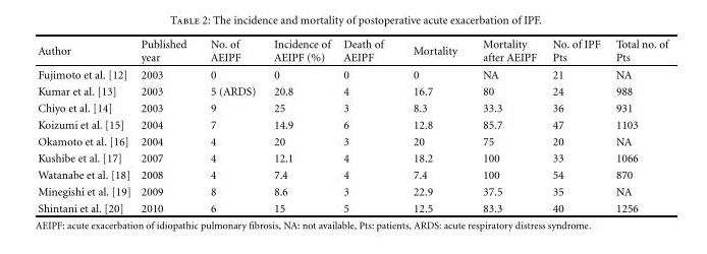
<table><thead><tr><td>Author</td><td>Published year</td><td>No. of AEIPF</td><td>Incidence of AEIPF (%)</td><td>Death of AEIPF</td><td>Mortality</td><td>Mortality after AEIPF</td><td>No. of IPF Pts</td><td>Total no. of Pts</td></tr></thead><tbody><tr><td>Fujimoto et al. [12]</td><td>2003</td><td>0</td><td>0</td><td>0</td><td>0</td><td>NA</td><td>21</td><td>NA</td></tr><tr><td>Kumar et al. [13]</td><td>2003</td><td>5 (ARDS)</td><td>20.8</td><td>4</td><td>16.7</td><td>80</td><td>24</td><td>988</td></tr><tr><td>Chiyo et al. [14]</td><td>2003</td><td>9</td><td>25</td><td>3</td><td>8.3</td><td>33.3</td><td>36</td><td>931</td></tr><tr><td>Koizumi et al. [15]</td><td>2004</td><td>7</td><td>14.9</td><td>6</td><td>12.8</td><td>85.7</td><td>47</td><td>1103</td></tr><tr><td>Okamoto et al. [16]</td><td>2004</td><td>4</td><td>20</td><td>3</td><td>20</td><td>75</td><td>20</td><td>NA</td></tr><tr><td>Kushibe et al. [17]</td><td>2007</td><td>4</td><td>12.1</td><td>4</td><td>18.2</td><td>100</td><td>33</td><td>1066</td></tr><tr><td>Watanabe et al. [18]</td><td>2008</td><td>4</td><td>7.4</td><td>4</td><td>7.4</td><td>100</td><td>54</td><td>870</td></tr><tr><td>Minegishi et al. [19]</td><td>2009</td><td>8</td><td>8.6</td><td>3</td><td>22.9</td><td>37.5</td><td>35</td><td>NA</td></tr><tr><td>Shintani et al. [20]</td><td>2010</td><td>6</td><td>15</td><td>5</td><td>12.5</td><td>83.3</td><td>40</td><td>1256</td></tr></tbody></table>